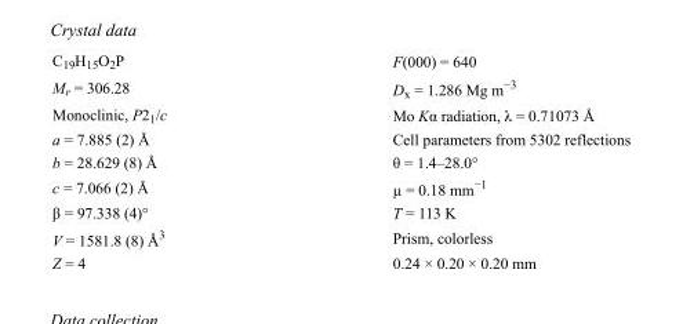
<table><tbody><tr><td>C<sub>19</sub>H<sub>15</sub>O<sub>2</sub>P</td><td>F(000) = 640</td></tr><tr><td>M<sub>r</sub> = 306.28</td><td>D<sub>x</sub> = 1.286 Mg m<sup>−3</sup></td></tr><tr><td>Monoclinic, P2<sub>1</sub>/c</td><td>Mo Kα radiation, λ = 0.71073 Å</td></tr><tr><td>a = 7.885 (2) Å</td><td>Cell parameters from 5302 reflections</td></tr><tr><td>b = 28.629 (8) Å</td><td>θ = 1.4–28.0°</td></tr><tr><td>c = 7.066 (2) Å</td><td>µ = 0.18 mm<sup>−1</sup></td></tr><tr><td>β = 97.338 (4)°</td><td>T = 113 K</td></tr><tr><td>V = 1581.8 (8) Å<sup>3</sup></td><td>Prism, colorless</td></tr><tr><td>Z = 4</td><td>0.24 × 0.20 × 0.20 mm</td></tr></tbody></table>